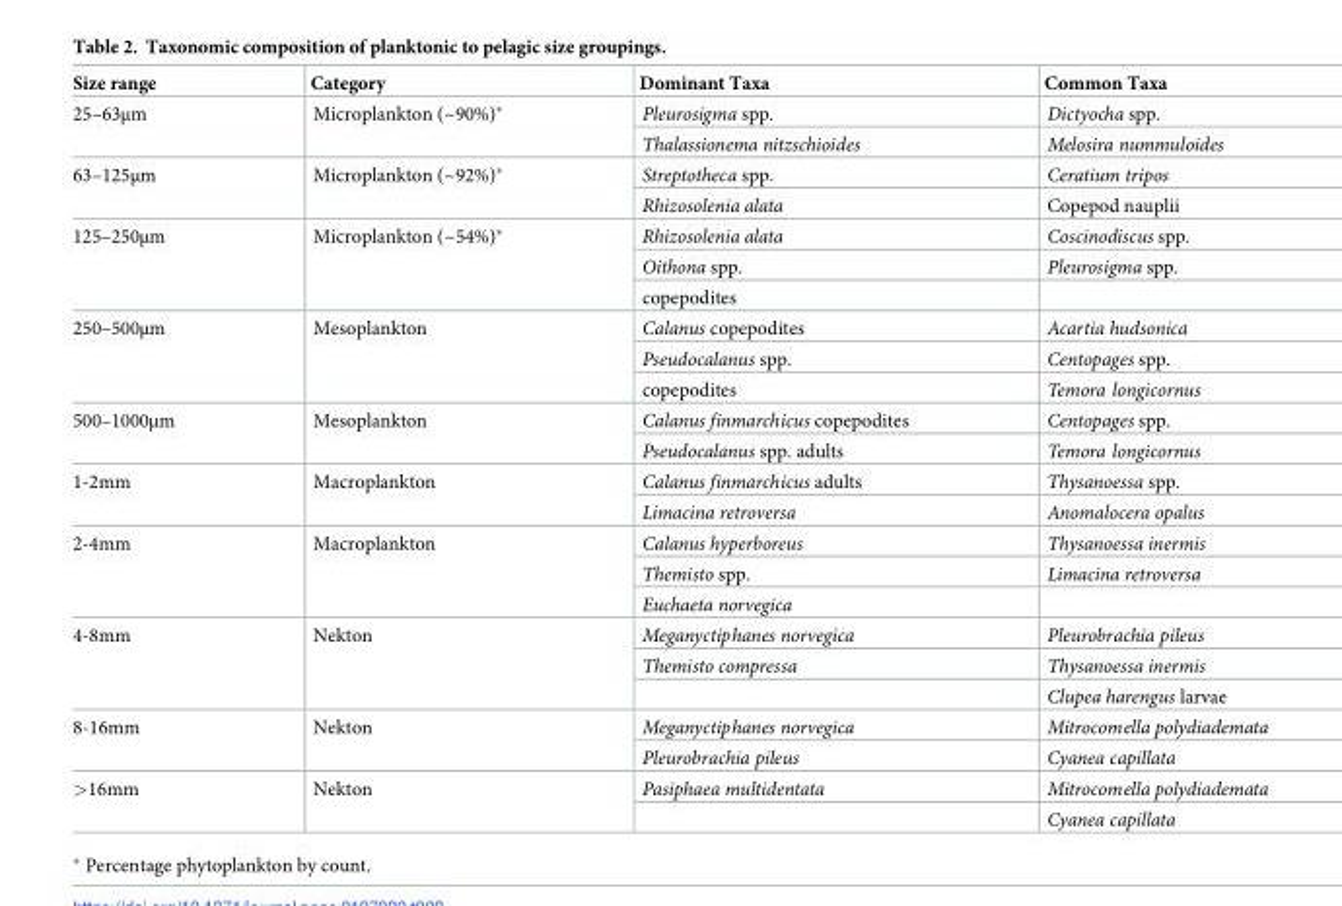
<table><thead><tr><td>Size range</td><td>Category</td><td>Dominant Taxa</td><td>Common Taxa</td></tr></thead><tbody><tr><td rowspan="2">25–63μm</td><td rowspan="2">Microplankton (~90%)*</td><td>Pleurosigma spp.</td><td>Dictyocha spp.</td></tr><tr><td>Thalassionema nitzschioides</td><td>Melosira nummuloides</td></tr><tr><td rowspan="2">63–125μm</td><td rowspan="2">Microplankton (~92%)*</td><td>Streptotheca spp.</td><td>Ceratium tripos</td></tr><tr><td>Rhizosolenia alata</td><td>Copepod nauplii</td></tr><tr><td rowspan="3">125–250μm</td><td rowspan="3">Microplankton (~54%)*</td><td>Rhizosolenia alata</td><td>Coscinodiscus spp.</td></tr><tr><td>Oithona spp.</td><td>Pleurosigma spp.</td></tr><tr><td>copepodites</td><td></td></tr><tr><td rowspan="3">250–500μm</td><td rowspan="3">Mesoplankton</td><td>Calanus copepodites</td><td>Acartia hudsonica</td></tr><tr><td>Pseudocalanus spp.</td><td>Centopages spp.</td></tr><tr><td>copepodites</td><td>Temora longicornus</td></tr><tr><td rowspan="2">500–1000μm</td><td rowspan="2">Mesoplankton</td><td>Calanus finmarchicus copepodites</td><td>Centopages spp.</td></tr><tr><td>Pseudocalanus spp. adults</td><td>Temora longicornus</td></tr><tr><td rowspan="2">1-2mm</td><td rowspan="2">Macroplankton</td><td>Calanus finmarchicus adults</td><td>Thysanoessa spp.</td></tr><tr><td>Limacina retroversa</td><td>Anomalocera opalus</td></tr><tr><td rowspan="3">2-4mm</td><td rowspan="3">Macroplankton</td><td>Calanus hyperboreus</td><td>Thysanoessa inermis</td></tr><tr><td>Themisto spp.</td><td>Limacina retroversa</td></tr><tr><td>Euchaeta norvegica</td><td></td></tr><tr><td rowspan="3">4-8mm</td><td rowspan="3">Nekton</td><td>Meganyctiphanes norvegica</td><td>Pleurobrachia pileus</td></tr><tr><td>Themisto compressa</td><td>Thysanoessa inermis</td></tr><tr><td></td><td>Clupea harengus larvae</td></tr><tr><td rowspan="2">8-16mm</td><td rowspan="2">Nekton</td><td>Meganyctiphanes norvegica</td><td>Mitrocomella polydiademata</td></tr><tr><td>Pleurobrachia pileus</td><td>Cyanea capillata</td></tr><tr><td rowspan="2">&gt;16mm</td><td rowspan="2">Nekton</td><td>Pasiphaea multidentata</td><td>Mitrocomella polydiademata</td></tr><tr><td></td><td>Cyanea capillata</td></tr></tbody></table>